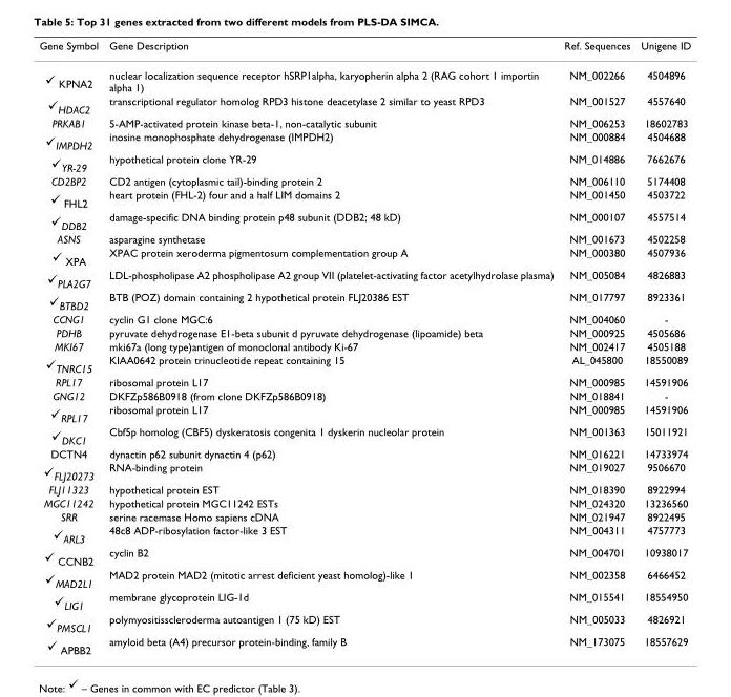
<table><thead><tr><td>Gene Symbol</td><td>Gene Description</td><td>Ref. Sequences</td><td>Unigene ID</td></tr></thead><tbody><tr><td>KPNA2 �</td><td>nuclear localization sequence receptor hSRP1alpha, karyopherin alpha 2 (RAG cohort 1 importin alpha 1)</td><td>NM_002266</td><td>4504896</td></tr><tr><td>HDAC2 �</td><td>transcriptional regulator homolog RPD3 histone deacetylase 2 similar to yeast RPD3</td><td>NM_001527</td><td>4557640</td></tr><tr><td>PRKAB1</td><td>5-AMP-activated protein kinase beta-1, non-catalytic subunit</td><td>NM_006253</td><td>18602783</td></tr><tr><td>IMPDH2 �</td><td>inosine monophosphate dehydrogenase (IMPDH2)</td><td>NM_000884</td><td>4504688</td></tr><tr><td>YR-29 �</td><td>hypothetical protein clone YR-29</td><td>NM_014886</td><td>7662676</td></tr><tr><td>CD2BP2</td><td>CD2 antigen (cytoplasmic tail)-binding protein 2</td><td>NM_006110</td><td>5174408</td></tr><tr><td>FHL2 �</td><td>heart protein (FHL-2) four and a half LIM domains 2</td><td>NM_001450</td><td>4503722</td></tr><tr><td>DDB2 �</td><td>damage-specific DNA binding protein p48 subunit (DDB2; 48 kD)</td><td>NM_000107</td><td>4557514</td></tr><tr><td>ASNS</td><td>asparagine synthetase</td><td>NM_001673</td><td>4502258</td></tr><tr><td>XPA �</td><td>XPAC protein xeroderma pigmentosum complementation group A</td><td>NM_000380</td><td>4507936</td></tr><tr><td>PLA2G7 �</td><td>LDL-phospholipase A2 phospholipase A2 group VII (platelet-activating factor acetylhydrolase plasma)</td><td>NM_005084</td><td>4826883</td></tr><tr><td>BTBD2 �</td><td>BTB (POZ) domain containing 2 hypothetical protein FLJ20386 EST</td><td>NM_017797</td><td>8923361</td></tr><tr><td>CCNG1</td><td>cyclin G1 clone MGC:6</td><td>NM_004060</td><td>-</td></tr><tr><td>PDHB</td><td>pyruvate dehydrogenase E1-beta subunit d pyruvate dehydrogenase (lipoamide) beta</td><td>NM_000925</td><td>4505686</td></tr><tr><td>MKI67</td><td>mki67a (long type)antigen of monoclonal antibody Ki-67</td><td>NM_002417</td><td>4505188</td></tr><tr><td>TNRC15 �</td><td>KIAA0642 protein trinucleotide repeat containing 15</td><td>AL_045800</td><td>18550089</td></tr><tr><td>RPL17</td><td>ribosomal protein L17</td><td>NM_000985</td><td>14591906</td></tr><tr><td>GNG12</td><td>DKFZp586B0918 (from clone DKFZp586B0918)</td><td>NM_018841</td><td>-</td></tr><tr><td>RPL17 �</td><td>ribosomal protein L17</td><td>NM_000985</td><td>14591906</td></tr><tr><td>DKC1 �</td><td>Cbf5p homolog (CBF5) dyskeratosis congenita 1 dyskerin nucleolar protein</td><td>NM_001363</td><td>15011921</td></tr><tr><td>DCTN4</td><td>dynactin p62 subunit dynactin 4 (p62)</td><td>NM_016221</td><td>14733974</td></tr><tr><td>FLJ20273 �</td><td>RNA-binding protein</td><td>NM_019027</td><td>9506670</td></tr><tr><td>FLJ11323</td><td>hypothetical protein EST</td><td>NM_018390</td><td>8922994</td></tr><tr><td>MGC11242</td><td>hypothetical protein MGC11242 ESTs</td><td>NM_024320</td><td>13236560</td></tr><tr><td>SRR</td><td>serine racemase Homo sapiens cDNA</td><td>NM_021947</td><td>8922495</td></tr><tr><td>ARL3 �</td><td>48c8 ADP-ribosylation factor-like 3 EST</td><td>NM_004311</td><td>4757773</td></tr><tr><td>CCNB2 �</td><td>cyclin B2</td><td>NM_004701</td><td>10938017</td></tr><tr><td>MAD2L1 �</td><td>MAD2 protein MAD2 (mitotic arrest deficient yeast homolog)-like 1</td><td>NM_002358</td><td>6466452</td></tr><tr><td>LIG1 �</td><td>membrane glycoprotein LIG-1d</td><td>NM_015541</td><td>18554950</td></tr><tr><td>PMSCL1 �</td><td>polymyositisscleroderma autoantigen 1 (75 kD) EST</td><td>NM_005033</td><td>4826921</td></tr><tr><td>APBB2 �</td><td>amyloid beta (A4) precursor protein-binding, family B</td><td>NM_173075</td><td>18557629</td></tr></tbody></table>